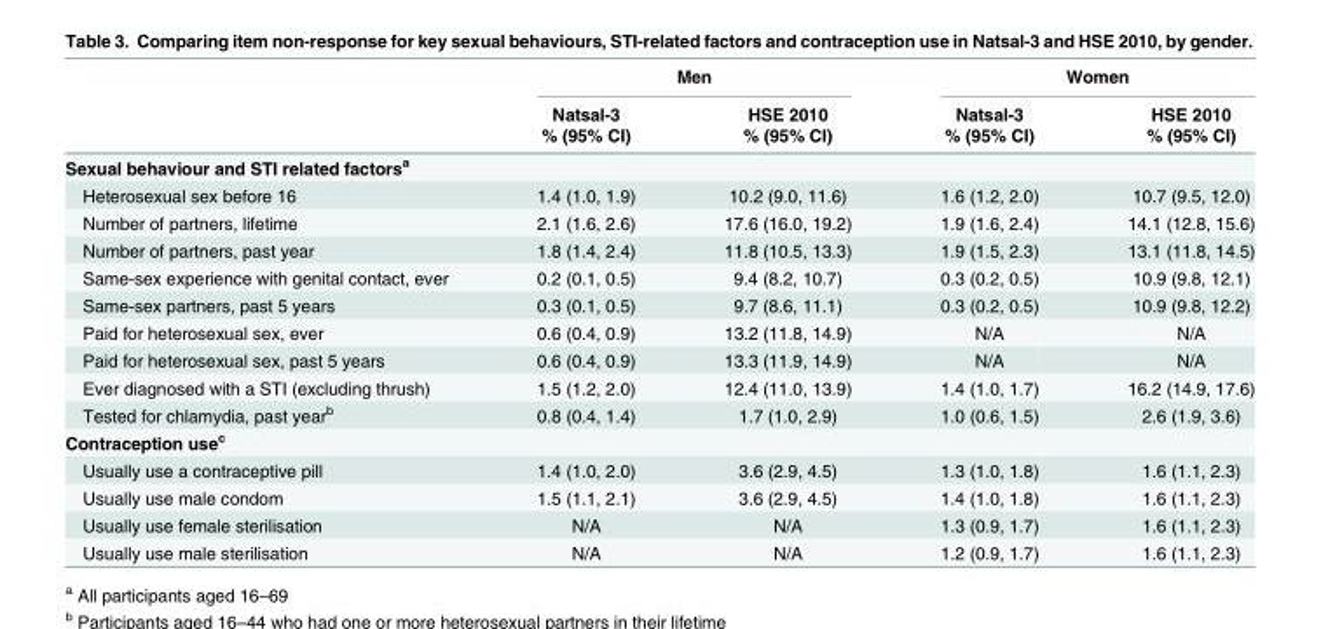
<table><thead><tr><td rowspan="3"></td><td colspan="2">Men</td><td colspan="2">Women</td></tr><tr><td rowspan="2">Natsal-3 % (95% CI)</td><td rowspan="2">HSE 2010 % (95% CI)</td><td rowspan="2">Natsal-3 % (95% CI)</td><td rowspan="2">HSE 2010 % (95% CI)</td></tr><tr></tr></thead><tbody><tr><td colspan="5">Sexual behaviour and STI related factors<sup>a</sup></td></tr><tr><td>Heterosexual sex before 16</td><td>1.4 (1.0, 1.9)</td><td>10.2 (9.0, 11.6)</td><td>1.6 (1.2, 2.0)</td><td>10.7 (9.5, 12.0)</td></tr><tr><td>Number of partners, lifetime</td><td>2.1 (1.6, 2.6)</td><td>17.6 (16.0, 19.2)</td><td>1.9 (1.6, 2.4)</td><td>14.1 (12.8, 15.6)</td></tr><tr><td>Number of partners, past year</td><td>1.8 (1.4, 2.4)</td><td>11.8 (10.5, 13.3)</td><td>1.9 (1.5, 2.3)</td><td>13.1 (11.8, 14.5)</td></tr><tr><td>Same-sex experience with genital contact, ever</td><td>0.2 (0.1, 0.5)</td><td>9.4 (8.2, 10.7)</td><td>0.3 (0.2, 0.5)</td><td>10.9 (9.8, 12.1)</td></tr><tr><td>Same-sex partners, past 5 years</td><td>0.3 (0.1, 0.5)</td><td>9.7 (8.6, 11.1)</td><td>0.3 (0.2, 0.5)</td><td>10.9 (9.8, 12.2)</td></tr><tr><td>Paid for heterosexual sex, ever</td><td>0.6 (0.4, 0.9)</td><td>13.2 (11.8, 14.9)</td><td>N/A</td><td>N/A</td></tr><tr><td>Paid for heterosexual sex, past 5 years</td><td>0.6 (0.4, 0.9)</td><td>13.3 (11.9, 14.9)</td><td>N/A</td><td>N/A</td></tr><tr><td>Ever diagnosed with a STI (excluding thrush)</td><td>1.5 (1.2, 2.0)</td><td>12.4 (11.0, 13.9)</td><td>1.4 (1.0, 1.7)</td><td>16.2 (14.9, 17.6)</td></tr><tr><td>Tested for chlamydia, past year<sup>b</sup></td><td>0.8 (0.4, 1.4)</td><td>1.7 (1.0, 2.9)</td><td>1.0 (0.6, 1.5)</td><td>2.6 (1.9, 3.6)</td></tr><tr><td colspan="5">Contraception use<sup>c</sup></td></tr><tr><td>Usually use a contraceptive pill</td><td>1.4 (1.0, 2.0)</td><td>3.6 (2.9, 4.5)</td><td>1.3 (1.0, 1.8)</td><td>1.6 (1.1, 2.3)</td></tr><tr><td>Usually use male condom</td><td>1.5 (1.1, 2.1)</td><td>3.6 (2.9, 4.5)</td><td>1.4 (1.0, 1.8)</td><td>1.6 (1.1, 2.3)</td></tr><tr><td>Usually use female sterilisation</td><td>N/A</td><td>N/A</td><td>1.3 (0.9, 1.7)</td><td>1.6 (1.1, 2.3)</td></tr><tr><td>Usually use male sterilisation</td><td>N/A</td><td>N/A</td><td>1.2 (0.9, 1.7)</td><td>1.6 (1.1, 2.3)</td></tr></tbody></table>